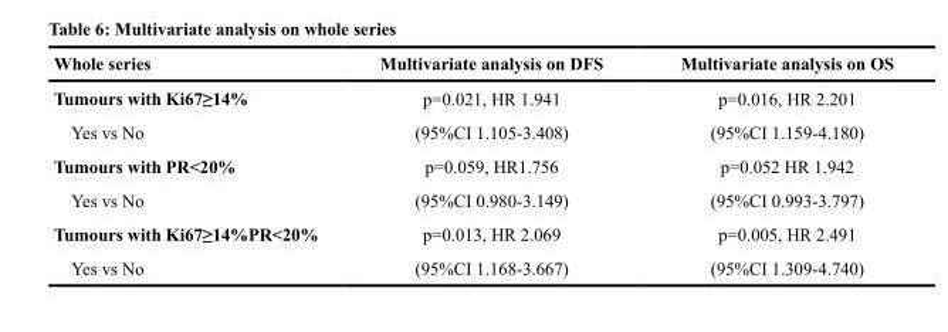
<table><thead><tr><td>Whole series</td><td>Multivariate analysis on DFS</td><td>Multivariate analysis on OS</td></tr></thead><tbody><tr><td>Tumours with Ki67≥14%</td><td>p=0.021, HR 1.941</td><td>p=0.016, HR 2.201</td></tr><tr><td>Yes vs No</td><td>(95%CI 1.105-3.408)</td><td>(95%CI 1.159-4.180)</td></tr><tr><td>Tumours with PR&lt;20%</td><td>p=0.059, HR1.756</td><td>p=0.052 HR 1.942</td></tr><tr><td>Yes vs No</td><td>(95%CI 0.980-3.149)</td><td>(95%CI 0.993-3.797)</td></tr><tr><td>Tumours with Ki67≥14%PR&lt;20%</td><td>p=0.013, HR 2.069</td><td>p=0.005, HR 2.491</td></tr><tr><td>Yes vs No</td><td>(95%CI 1.168-3.667)</td><td>(95%CI 1.309-4.740)</td></tr></tbody></table>